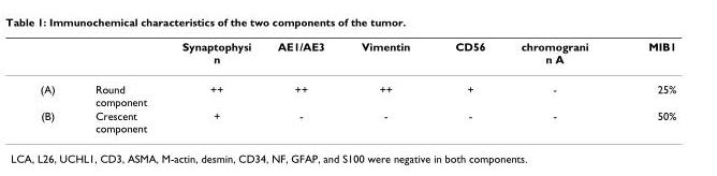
<table><thead><tr><td></td><td></td><td>Synaptophysi n</td><td>AE1/AE3</td><td>Vimentin</td><td>CD56</td><td>chromograni n A</td><td>MIB1</td></tr></thead><tbody><tr><td>(A)</td><td>Round component</td><td>++</td><td>++</td><td>++</td><td>+</td><td>-</td><td>25%</td></tr><tr><td>(B)</td><td>Crescent component</td><td>+</td><td>-</td><td>-</td><td>-</td><td>-</td><td>50%</td></tr></tbody></table>